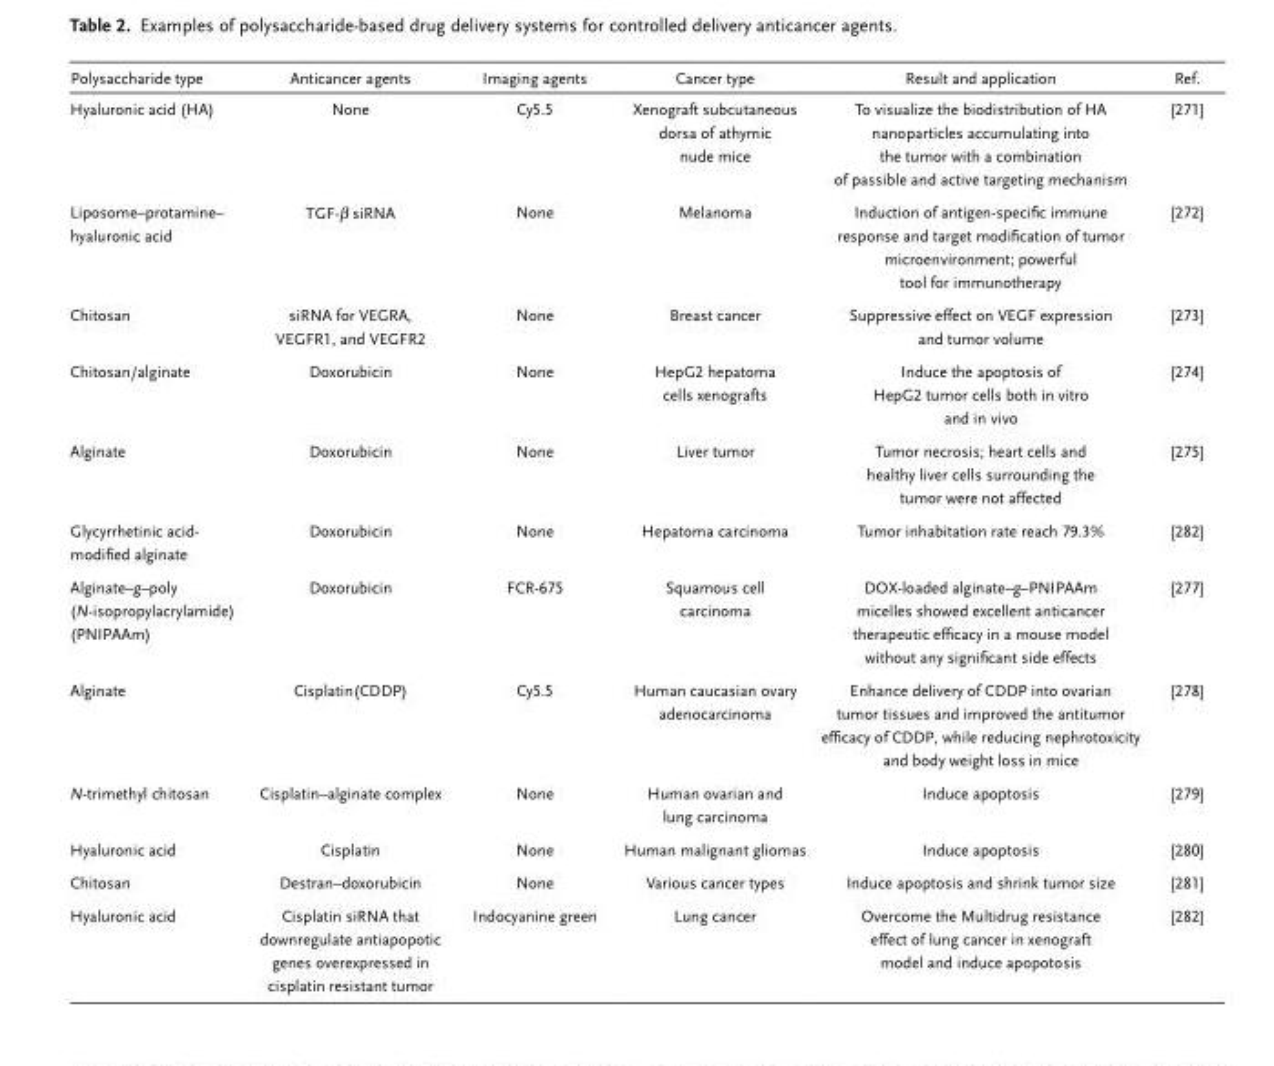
<table><thead><tr><td>Polysaccharide type</td><td>Anticancer agents</td><td>Imaging agents</td><td>Cancer type</td><td>Result and application</td><td>Ref.</td></tr></thead><tbody><tr><td>Hyaluronic acid (HA)</td><td>None</td><td>Cy5.5</td><td>Xenograft subcutaneous dorsa of athymic nude mice</td><td>To visualize the biodistribution of HA nanoparticles accumulating into the tumor with a combination of passible and active targeting mechanism</td><td>[271]</td></tr><tr><td>Liposome–protamine– hyaluronic acid</td><td>TGF-β siRNA</td><td>None</td><td>Melanoma</td><td>Induction of antigen-specific immune response and target modification of tumor microenvironment; powerful tool for immunotherapy</td><td>[272]</td></tr><tr><td>Chitosan</td><td>siRNA for VEGRA, VEGFR1, and VEGFR2</td><td>None</td><td>Breast cancer</td><td>Suppressive effect on VEGF expression and tumor volume</td><td>[273]</td></tr><tr><td>Chitosan/alginate</td><td>Doxorubicin</td><td>None</td><td>HepG2 hepatoma cells xenografts</td><td>Induce the apoptosis of HepG2 tumor cells both in vitro and in vivo</td><td>[274]</td></tr><tr><td>Alginate</td><td>Doxorubicin</td><td>None</td><td>Liver tumor</td><td>Tumor necrosis; heart cells and healthy liver cells surrounding the tumor were not affected</td><td>[275]</td></tr><tr><td>Glycyrrhetinic acid- modified alginate</td><td>Doxorubicin</td><td>None</td><td>Hepatoma carcinoma</td><td>Tumor inhabitation rate reach 79.3%</td><td>[282]</td></tr><tr><td>Alginate–g–poly (N-isopropylacrylamide) (PNIPAAm)</td><td>Doxorubicin</td><td>FCR-675</td><td>Squamous cell carcinoma</td><td>DOX-loaded alginate–g–PNIPAAm micelles showed excellent anticancer therapeutic efficacy in a mouse model without any significant side effects</td><td>[277]</td></tr><tr><td>Alginate</td><td>Cisplatin(CDDP)</td><td>Cy5.5</td><td>Human caucasian ovary adenocarcinoma</td><td>Enhance delivery of CDDP into ovarian tumor tissues and improved the antitumor efficacy of CDDP, while reducing nephrotoxicity and body weight loss in mice</td><td>[278]</td></tr><tr><td>N-trimethyl chitosan</td><td>Cisplatin–alginate complex</td><td>None</td><td>Human ovarian and lung carcinoma</td><td>Induce apoptosis</td><td>[279]</td></tr><tr><td>Hyaluronic acid</td><td>Cisplatin</td><td>None</td><td>Human malignant gliomas</td><td>Induce apoptosis</td><td>[280]</td></tr><tr><td>Chitosan</td><td>Destran–doxorubicin</td><td>None</td><td>Various cancer types</td><td>Induce apoptosis and shrink tumor size</td><td>[281]</td></tr><tr><td>Hyaluronic acid</td><td>Cisplatin siRNA that downregulate antiapopotic genes overexpressed in cisplatin resistant tumor</td><td>Indocyanine green</td><td>Lung cancer</td><td>Overcome the Multidrug resistance effect of lung cancer in xenograft model and induce apopotosis</td><td>[282]</td></tr></tbody></table>